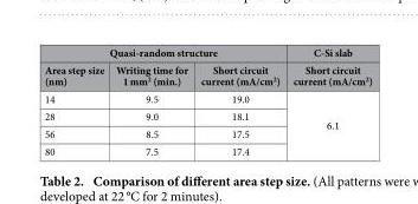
<table><thead><tr><td colspan="3">Quasi-random structure</td><td rowspan="2">C-Si slab Short circuit current (mA/cm<sup>2</sup>)</td></tr><tr><td>Area step size (nm)</td><td>Writing time for 1 mm<sup>2</sup> (min.)</td><td>Short circuit current (mA/cm<sup>2</sup>)</td></tr></thead><tbody><tr><td>14</td><td>9.5</td><td>19.0</td><td rowspan="4">6.1</td></tr><tr><td>28</td><td>9.0</td><td>18.1</td></tr><tr><td>56</td><td>8.5</td><td>17.5</td></tr><tr><td>80</td><td>7.5</td><td>17.4</td></tr></tbody></table>